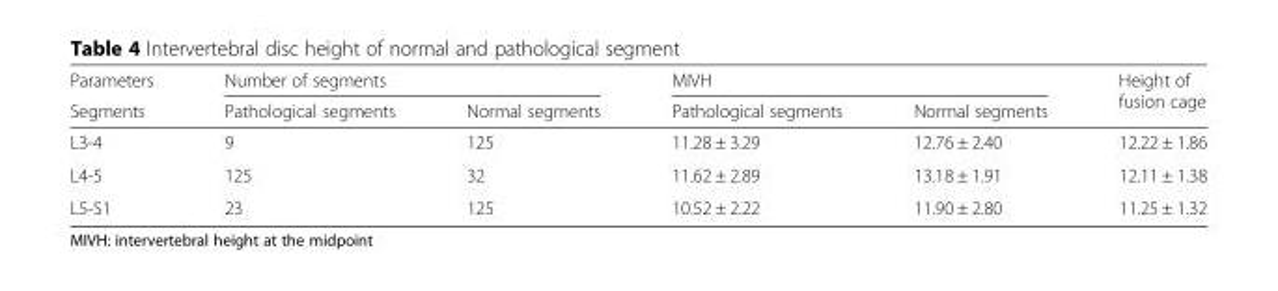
<table><thead><tr><td rowspan="2">Parameters Segments</td><td colspan="2">Number of segments</td><td colspan="2">MIVH</td><td rowspan="2">Height of fusion cage</td></tr><tr><td>Pathological segments</td><td>Normal segments</td><td>Pathological segments</td><td>Normal segments</td></tr></thead><tbody><tr><td>L3-4</td><td>9</td><td>125</td><td>11.28 ± 3.29</td><td>12.76 ± 2.40</td><td>12.22 ± 1.86</td></tr><tr><td>L4-5</td><td>125</td><td>32</td><td>11.62 ± 2.89</td><td>13.18 ± 1.91</td><td>12.11 ± 1.38</td></tr><tr><td>L5-S1</td><td>23</td><td>125</td><td>10.52 ± 2.22</td><td>11.90 ± 2.80</td><td>11.25 ± 1.32</td></tr></tbody></table>